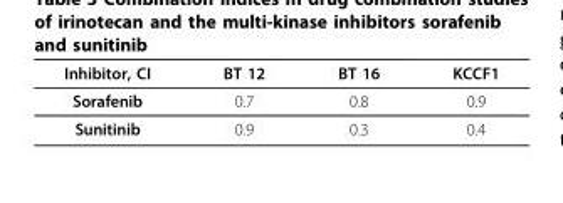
<table><thead><tr><td>Inhibitor, CI</td><td>BT 12</td><td>BT 16</td><td>KCCF1</td></tr></thead><tbody><tr><td>Sorafenib</td><td>0.7</td><td>0.8</td><td>0.9</td></tr><tr><td>Sunitinib</td><td>0.9</td><td>0.3</td><td>0.4</td></tr></tbody></table>